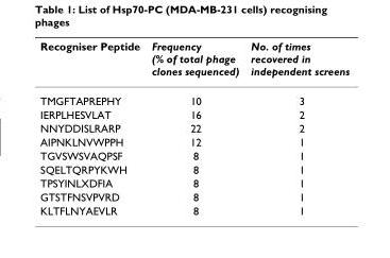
<table><thead><tr><td>Recogniser Peptide</td><td>Frequency (% of total phage clones sequenced)</td><td>No. of times recovered in independent screens</td></tr></thead><tbody><tr><td>TMGFTAPREPHY</td><td>10</td><td>3</td></tr><tr><td>IERPLHESVLAT</td><td>16</td><td>2</td></tr><tr><td>NNYDDISLRARP</td><td>22</td><td>2</td></tr><tr><td>AIPNKLNVWPPH</td><td>12</td><td>1</td></tr><tr><td>TGVSWSVAQPSF</td><td>8</td><td>1</td></tr><tr><td>SQELTQRPYKWH</td><td>8</td><td>1</td></tr><tr><td>TPSYINLXDFIA</td><td>8</td><td>1</td></tr><tr><td>GTSTFNSVPVRD</td><td>8</td><td>1</td></tr><tr><td>KLTFLNYAEVLR</td><td>8</td><td>1</td></tr></tbody></table>